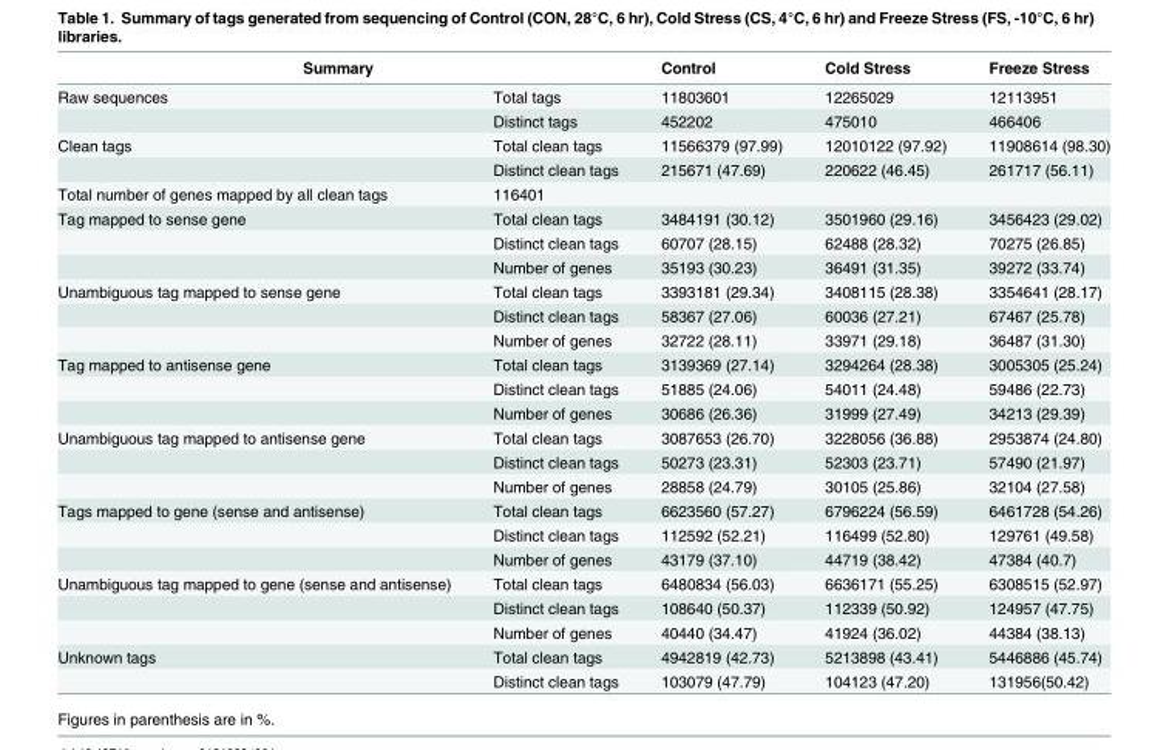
<table><thead><tr><td colspan="2">Summary</td><td rowspan="2">Control 11803601</td><td rowspan="2">Cold Stress 12265029</td><td rowspan="2">Freeze Stress 12113951</td></tr><tr><td>Raw sequences</td><td>Total tags</td></tr></thead><tbody><tr><td></td><td>Distinct tags</td><td>452202</td><td>475010</td><td>466406</td></tr><tr><td rowspan="2">Clean tags</td><td>Total clean tags</td><td>11566379 (97.99)</td><td>12010122 (97.92)</td><td>11908614 (98.30)</td></tr><tr><td>Distinct clean tags</td><td>215671 (47.69)</td><td>220622 (46.45)</td><td>261717 (56.11)</td></tr><tr><td>Total number of genes mapped by all clean tags</td><td colspan="4">116401</td></tr><tr><td rowspan="3">Tag mapped to sense gene</td><td>Total clean tags</td><td>3484191 (30.12)</td><td>3501960 (29.16)</td><td>3456423 (29.02)</td></tr><tr><td>Distinct clean tags</td><td>60707 (28.15)</td><td>62488 (28.32)</td><td>70275 (26.85)</td></tr><tr><td>Number of genes</td><td>35193 (30.23)</td><td>36491 (31.35)</td><td>39272 (33.74)</td></tr><tr><td rowspan="3">Unambiguous tag mapped to sense gene</td><td>Total clean tags</td><td>3393181 (29.34)</td><td>3408115 (28.38)</td><td>3354641 (28.17)</td></tr><tr><td>Distinct clean tags</td><td>58367 (27.06)</td><td>60036 (27.21)</td><td>67467 (25.78)</td></tr><tr><td>Number of genes</td><td>32722 (28.11)</td><td>33971 (29.18)</td><td>36487 (31.30)</td></tr><tr><td rowspan="3">Tag mapped to antisense gene</td><td>Total clean tags</td><td>3139369 (27.14)</td><td>3294264 (28.38)</td><td>3005305 (25.24)</td></tr><tr><td>Distinct clean tags</td><td>51885 (24.06)</td><td>54011 (24.48)</td><td>59486 (22.73)</td></tr><tr><td>Number of genes</td><td>30686 (26.36)</td><td>31999 (27.49)</td><td>34213 (29.39)</td></tr><tr><td rowspan="3">Unambiguous tag mapped to antisense gene</td><td>Total clean tags</td><td>3087653 (26.70)</td><td>3228056 (36.88)</td><td>2953874 (24.80)</td></tr><tr><td>Distinct clean tags</td><td>50273 (23.31)</td><td>52303 (23.71)</td><td>57490 (21.97)</td></tr><tr><td>Number of genes</td><td>28858 (24.79)</td><td>30105 (25.86)</td><td>32104 (27.58)</td></tr><tr><td rowspan="3">Tags mapped to gene (sense and antisense)</td><td>Total clean tags</td><td>6623560 (57.27)</td><td>6796224 (56.59)</td><td>6461728 (54.26)</td></tr><tr><td>Distinct clean tags</td><td>112592 (52.21)</td><td>116499 (52.80)</td><td>129761 (49.58)</td></tr><tr><td>Number of genes</td><td>43179 (37.10)</td><td>44719 (38.42)</td><td>47384 (40.7)</td></tr><tr><td rowspan="3">Unambiguous tag mapped to gene (sense and antisense)</td><td>Total clean tags</td><td>6480834 (56.03)</td><td>6636171 (55.25)</td><td>6308515 (52.97)</td></tr><tr><td>Distinct clean tags</td><td>108640 (50.37)</td><td>112339 (50.92)</td><td>124957 (47.75)</td></tr><tr><td>Number of genes</td><td>40440 (34.47)</td><td>41924 (36.02)</td><td>44384 (38.13)</td></tr><tr><td rowspan="2">Unknown tags</td><td>Total clean tags</td><td>4942819 (42.73)</td><td>5213898 (43.41)</td><td>5446886 (45.74)</td></tr><tr><td>Distinct clean tags</td><td>103079 (47.79)</td><td>104123 (47.20)</td><td>131956(50.42)</td></tr></tbody></table>